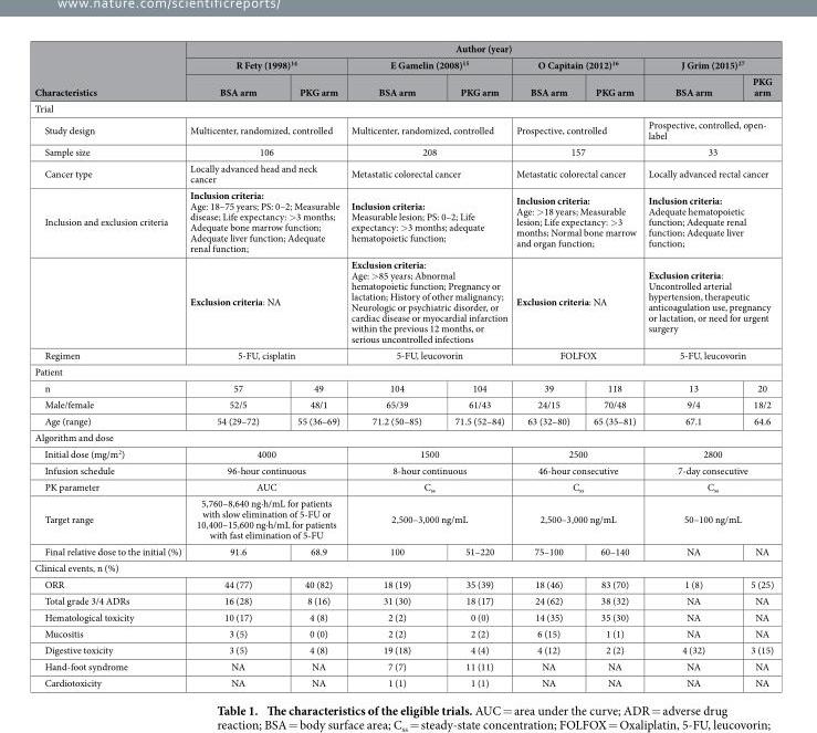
<table><thead><tr><td rowspan="3">Characteristics</td><td colspan="8">Author (year)</td></tr><tr><td colspan="2">R Fety (1998)<sup>14</sup></td><td colspan="2">E Gamelin (2008)<sup>15</sup></td><td colspan="2">O Capitain (2012)<sup>16</sup></td><td colspan="2">J Grim (2015)<sup>27</sup></td></tr><tr><td>BSA arm</td><td>PKG arm</td><td>BSA arm</td><td>PKG arm</td><td>BSA arm</td><td>PKG arm</td><td>BSA arm</td><td>PKG arm</td></tr></thead><tbody><tr><td colspan="9">Trial</td></tr><tr><td>Study design</td><td colspan="2">Multicenter, randomized, controlled</td><td colspan="2">Multicenter, randomized, controlled</td><td colspan="2">Prospective, controlled</td><td colspan="2">Prospective, controlled, open- label</td></tr><tr><td>Sample size</td><td colspan="2">106</td><td colspan="2">208</td><td colspan="2">157</td><td colspan="2">33</td></tr><tr><td>Cancer type</td><td colspan="2">Locally advanced head and neck cancer</td><td colspan="2">Metastatic colorectal cancer</td><td colspan="2">Metastatic colorectal cancer</td><td colspan="2">Locally advanced rectal cancer</td></tr><tr><td rowspan="2">Inclusion and exclusion criteria</td><td colspan="2">Inclusion criteria: Age: 18–75 years; PS: 0–2; Measurable disease; Life expectancy: &gt;3 months; Adequate bone marrow function; Adequate liver function; Adequate renal function;</td><td colspan="2">Inclusion criteria: Measurable lesion; PS: 0–2; Life expectancy: &gt;3 months; adequate hematopoietic function;</td><td colspan="2">Inclusion criteria: Age: &gt;18 years; Measurable lesion; Life expectancy: &gt;3 months; Normal bone marrow and organ function;</td><td colspan="2">Inclusion criteria: Adequate hematopoietic function; Adequate renal function; Adequate liver function;</td></tr><tr><td colspan="2">Exclusion criteria: NA</td><td colspan="2">Exclusion criteria: Age: &gt;85 years; Abnormal hematopoietic function; Pregnancy or lactation; History of other malignancy; Neurologic or psychiatric disorder, or cardiac disease or myocardial infarction within the previous 12 months, or serious uncontrolled infections</td><td colspan="2">Exclusion criteria: NA</td><td colspan="2">Exclusion criteria: Uncontrolled arterial hypertension, therapeutic anticoagulation use, pregnancy or lactation, or need for urgent surgery</td></tr><tr><td>Regimen</td><td colspan="2">5-FU, cisplatin</td><td colspan="2">5-FU, leucovorin</td><td colspan="2">FOLFOX</td><td colspan="2">5-FU, leucovorin</td></tr><tr><td colspan="9">Patient</td></tr><tr><td>n</td><td>57</td><td>49</td><td>104</td><td>104</td><td>39</td><td>118</td><td>13</td><td>20</td></tr><tr><td>Male/female</td><td>52/5</td><td>48/1</td><td>65/39</td><td>61/43</td><td>24/15</td><td>70/48</td><td>9/4</td><td>18/2</td></tr><tr><td>Age (range)</td><td>54 (29–72)</td><td>55 (36–69)</td><td>71.2 (50–85)</td><td>71.5 (52–84)</td><td>63 (32–80)</td><td>65 (35–81)</td><td>67.1</td><td>64.6</td></tr><tr><td colspan="9">Algorithm and dose</td></tr><tr><td>Initial dose (mg/m<sup>2</sup>)</td><td colspan="2">4000</td><td colspan="2">1500</td><td colspan="2">2500</td><td colspan="2">2800</td></tr><tr><td>Infusion schedule</td><td colspan="2">96-hour continuous</td><td colspan="2">8-hour continuous</td><td colspan="2">46-hour consecutive</td><td colspan="2">7-day consecutive</td></tr><tr><td>PK parameter</td><td colspan="2">AUC</td><td colspan="2">C<sub>ss</sub></td><td colspan="2">C<sub>ss</sub></td><td colspan="2">C<sub>ss</sub></td></tr><tr><td>Target range</td><td colspan="2">5,760–8,640 ng·h/mL for patients with slow elimination of 5-FU or 10,400–15,600 ng·h/mL for patients with fast elimination of 5-FU</td><td colspan="2">2,500–3,000 ng/mL</td><td colspan="2">2,500–3,000 ng/mL</td><td colspan="2">50–100 ng/mL</td></tr><tr><td>Final relative dose to the initial (%)</td><td>91.6</td><td>68.9</td><td>100</td><td>51–220</td><td>75–100</td><td>60–140</td><td>NA</td><td>NA</td></tr><tr><td colspan="9">Clinical events, n (%)</td></tr><tr><td>ORR</td><td>44 (77)</td><td>40 (82)</td><td>18 (19)</td><td>35 (39)</td><td>18 (46)</td><td>83 (70)</td><td>1 (8)</td><td>5 (25)</td></tr><tr><td>Total grade 3/4 ADRs</td><td>16 (28)</td><td>8 (16)</td><td>31 (30)</td><td>18 (17)</td><td>24 (62)</td><td>38 (32)</td><td>NA</td><td>NA</td></tr><tr><td>Hematological toxicity</td><td>10 (17)</td><td>4 (8)</td><td>2 (2)</td><td>0 (0)</td><td>14 (35)</td><td>35 (30)</td><td>NA</td><td>NA</td></tr><tr><td>Mucositis</td><td>3 (5)</td><td>0 (0)</td><td>2 (2)</td><td>2 (2)</td><td>6 (15)</td><td>1 (1)</td><td>NA</td><td>NA</td></tr><tr><td>Digestive toxicity</td><td>3 (5)</td><td>4 (8)</td><td>19 (18)</td><td>4 (4)</td><td>4 (12)</td><td>2 (2)</td><td>4 (32)</td><td>3 (15)</td></tr><tr><td>Hand-foot syndrome</td><td>NA</td><td>NA</td><td>7 (7)</td><td>11 (11)</td><td>NA</td><td>NA</td><td>NA</td><td>NA</td></tr><tr><td>Cardiotoxicity</td><td>NA</td><td>NA</td><td>1 (1)</td><td>1 (1)</td><td>NA</td><td>NA</td><td>NA</td><td>NA</td></tr></tbody></table>